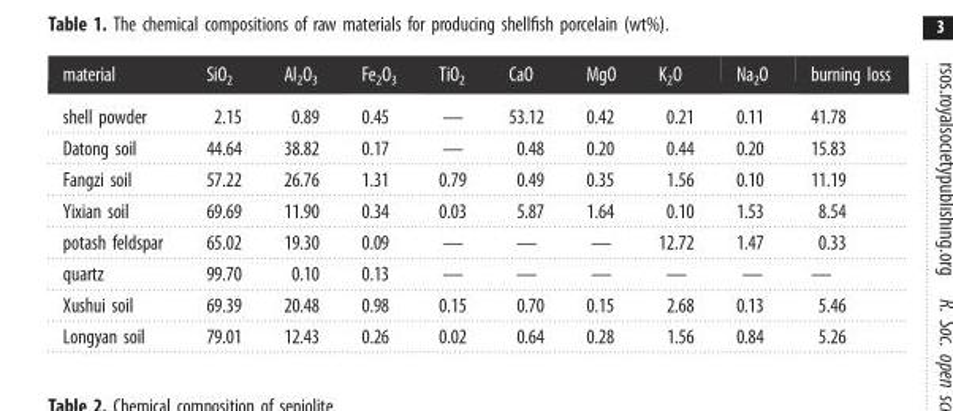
<table><thead><tr><td>material</td><td>SiO<sub>2</sub></td><td>Al<sub>2</sub>O<sub>3</sub></td><td>Fe<sub>2</sub>O<sub>3</sub></td><td>TiO<sub>2</sub></td><td>CaO</td><td>MgO</td><td>K<sub>2</sub>O</td><td>Na<sub>2</sub>O</td><td>burning loss</td></tr></thead><tbody><tr><td>shell powder</td><td>2.15</td><td>0.89</td><td>0.45</td><td>—</td><td>53.12</td><td>0.42</td><td>0.21</td><td>0.11</td><td>41.78</td></tr><tr><td>Datong soil</td><td>44.64</td><td>38.82</td><td>0.17</td><td>—</td><td>0.48</td><td>0.20</td><td>0.44</td><td>0.20</td><td>15.83</td></tr><tr><td>Fangzi soil</td><td>57.22</td><td>26.76</td><td>1.31</td><td>0.79</td><td>0.49</td><td>0.35</td><td>1.56</td><td>0.10</td><td>11.19</td></tr><tr><td>Yixian soil</td><td>69.69</td><td>11.90</td><td>0.34</td><td>0.03</td><td>5.87</td><td>1.64</td><td>0.10</td><td>1.53</td><td>8.54</td></tr><tr><td>potash feldspar</td><td>65.02</td><td>19.30</td><td>0.09</td><td>—</td><td>—</td><td>—</td><td>12.72</td><td>1.47</td><td>0.33</td></tr><tr><td>quartz</td><td>99.70</td><td>0.10</td><td>0.13</td><td>—</td><td>—</td><td>—</td><td>—</td><td>—</td><td>—</td></tr><tr><td>Xushui soil</td><td>69.39</td><td>20.48</td><td>0.98</td><td>0.15</td><td>0.70</td><td>0.15</td><td>2.68</td><td>0.13</td><td>5.46</td></tr><tr><td>Longyan soil</td><td>79.01</td><td>12.43</td><td>0.26</td><td>0.02</td><td>0.64</td><td>0.28</td><td>1.56</td><td>0.84</td><td>5.26</td></tr></tbody></table>